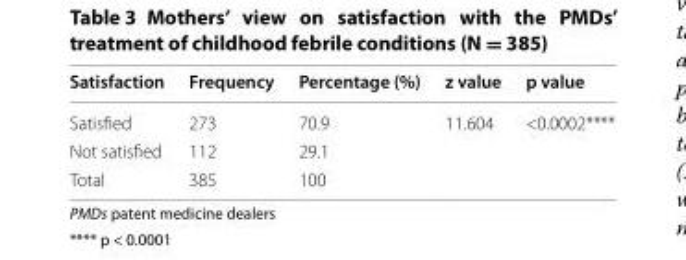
<table><thead><tr><td>Satisfaction</td><td>Frequency</td><td>Percentage (%)</td><td>z value</td><td>p value</td></tr></thead><tbody><tr><td>Satisfied</td><td>273</td><td>70.9</td><td>11.604</td><td>&lt;0.0002****</td></tr><tr><td>Not satisfied</td><td>112</td><td>29.1</td><td></td><td></td></tr><tr><td>Total</td><td>385</td><td>100</td><td></td><td></td></tr></tbody></table>